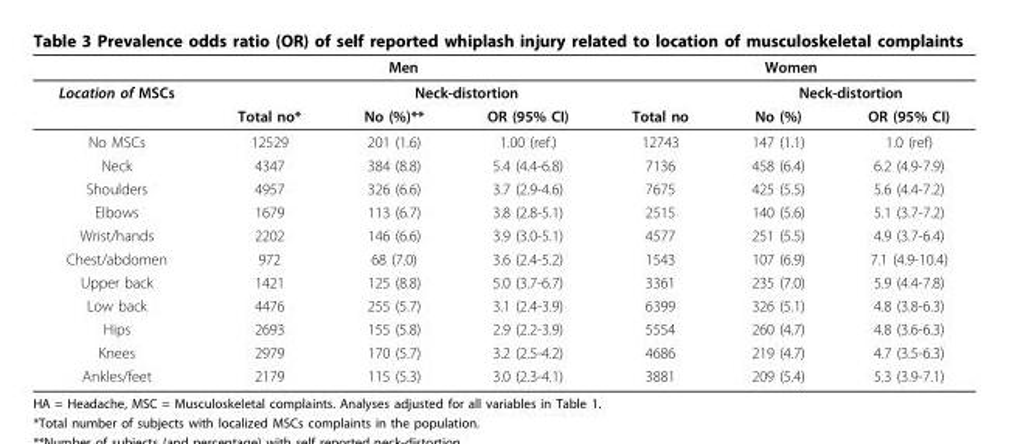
<table><thead><tr><td rowspan="3">Location of MSCs</td><td colspan="3">Men</td><td colspan="3">Women</td></tr><tr><td rowspan="2">Total no*</td><td colspan="2">Neck-distortion</td><td rowspan="2">Total no</td><td colspan="2">Neck-distortion</td></tr><tr><td>No (%)**</td><td>OR (95% CI)</td><td>No (%)</td><td>OR (95% CI)</td></tr></thead><tbody><tr><td>No MSCs</td><td>12529</td><td>201 (1.6)</td><td>1.00 (ref.)</td><td>12743</td><td>147 (1.1)</td><td>1.0 (ref)</td></tr><tr><td>Neck</td><td>4347</td><td>384 (8.8)</td><td>5.4 (4.4-6.8)</td><td>7136</td><td>458 (6.4)</td><td>6.2 (4.9-7.9)</td></tr><tr><td>Shoulders</td><td>4957</td><td>326 (6.6)</td><td>3.7 (2.9-4.6)</td><td>7675</td><td>425 (5.5)</td><td>5.6 (4.4-7.2)</td></tr><tr><td>Elbows</td><td>1679</td><td>113 (6.7)</td><td>3.8 (2.8-5.1)</td><td>2515</td><td>140 (5.6)</td><td>5.1 (3.7-7.2)</td></tr><tr><td>Wrist/hands</td><td>2202</td><td>146 (6.6)</td><td>3.9 (3.0-5.1)</td><td>4577</td><td>251 (5.5)</td><td>4.9 (3.7-6.4)</td></tr><tr><td>Chest/abdomen</td><td>972</td><td>68 (7.0)</td><td>3.6 (2.4-5.2)</td><td>1543</td><td>107 (6.9)</td><td>7.1 (4.9-10.4)</td></tr><tr><td>Upper back</td><td>1421</td><td>125 (8.8)</td><td>5.0 (3.7-6.7)</td><td>3361</td><td>235 (7.0)</td><td>5.9 (4.4-7.8)</td></tr><tr><td>Low back</td><td>4476</td><td>255 (5.7)</td><td>3.1 (2.4-3.9)</td><td>6399</td><td>326 (5.1)</td><td>4.8 (3.8-6.3)</td></tr><tr><td>Hips</td><td>2693</td><td>155 (5.8)</td><td>2.9 (2.2-3.9)</td><td>5554</td><td>260 (4.7)</td><td>4.8 (3.6-6.3)</td></tr><tr><td>Knees</td><td>2979</td><td>170 (5.7)</td><td>3.2 (2.5-4.2)</td><td>4686</td><td>219 (4.7)</td><td>4.7 (3.5-6.3)</td></tr><tr><td>Ankles/feet</td><td>2179</td><td>115 (5.3)</td><td>3.0 (2.3-4.1)</td><td>3881</td><td>209 (5.4)</td><td>5.3 (3.9-7.1)</td></tr></tbody></table>